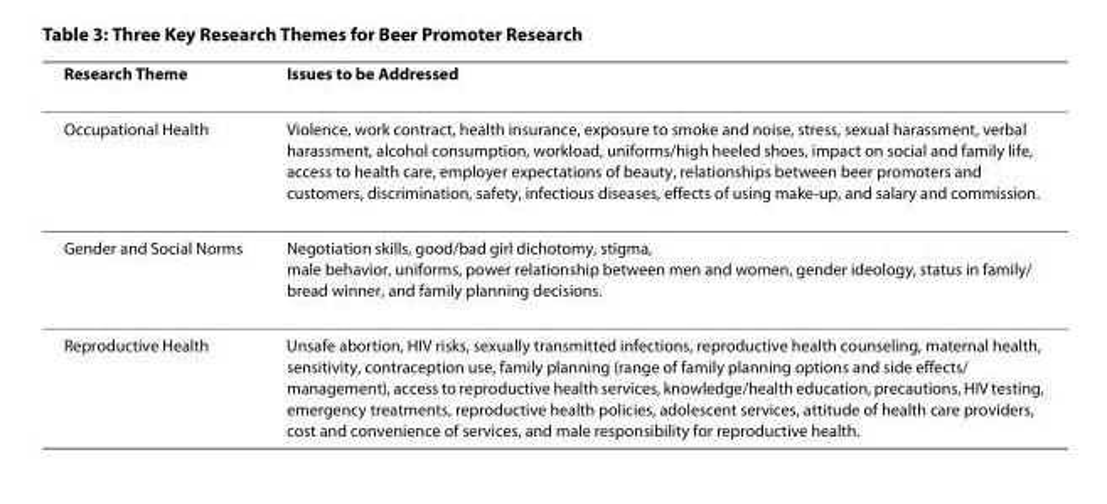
<table><thead><tr><td>Research Theme</td><td>Issues to be Addressed</td></tr></thead><tbody><tr><td>Occupational Health</td><td>Violence, work contract, health insurance, exposure to smoke and noise, stress, sexual harassment, verbal harassment, alcohol consumption, workload, uniforms/high heeled shoes, impact on social and family life, access to health care, employer expectations of beauty, relationships between beer promoters and customers, discrimination, safety, infectious diseases, effects of using make-up, and salary and commission.</td></tr><tr><td>Gender and Social Norms</td><td>Negotiation skills, good/bad girl dichotomy, stigma, male behavior, uniforms, power relationship between men and women, gender ideology, status in family/ bread winner, and family planning decisions.</td></tr><tr><td>Reproductive Health</td><td>Unsafe abortion, HIV risks, sexually transmitted infections, reproductive health counseling, maternal health, sensitivity, contraception use, family planning (range of family planning options and side effects/ management), access to reproductive health services, knowledge/health education, precautions, HIV testing, emergency treatments, reproductive health policies, adolescent services, attitude of health care providers, cost and convenience of services, and male responsibility for reproductive health.</td></tr></tbody></table>